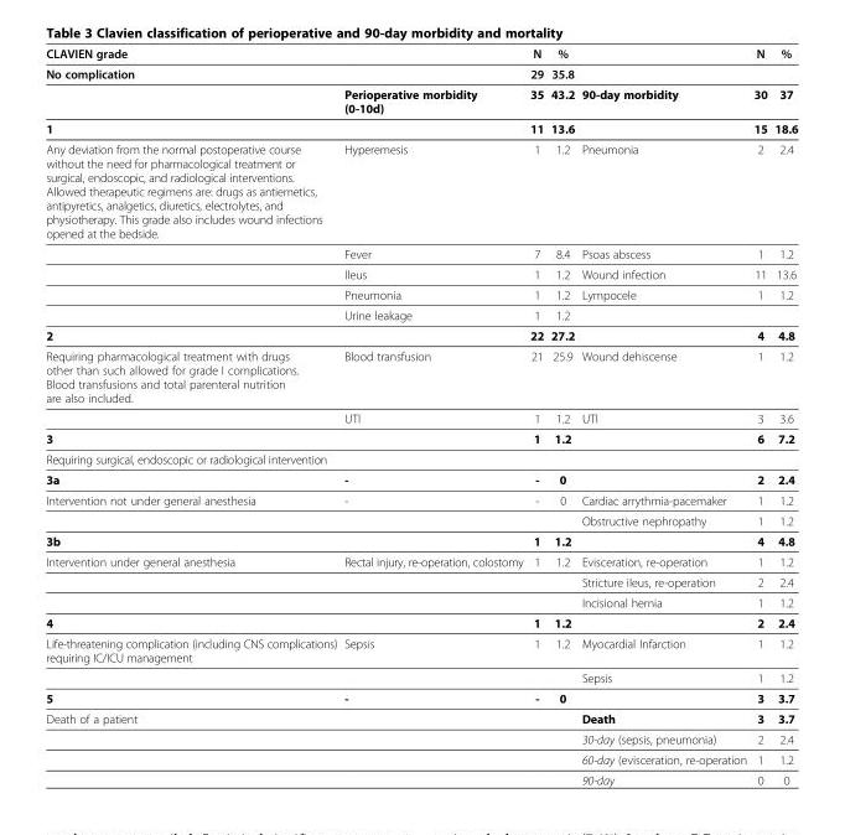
<table><thead><tr><td rowspan="2">CLAVIEN grade No complication</td><td rowspan="2"></td><td rowspan="2">N 29</td><td rowspan="2">% 35.8</td><td rowspan="2"></td><td rowspan="2">N</td><td rowspan="2">%</td></tr><tr></tr></thead><tbody><tr><td></td><td>Perioperative morbidity (0-10d)</td><td>35</td><td>43.2</td><td>90-day morbidity</td><td>30</td><td>37</td></tr><tr><td>1</td><td></td><td>11</td><td>13.6</td><td></td><td>15</td><td>18.6</td></tr><tr><td rowspan="5">Any deviation from the normal postoperative course without the need for pharmacological treatment or surgical, endoscopic, and radiological interventions. Allowed therapeutic regimens are: drugs as antiemetics, antipyretics, analgetics, diuretics, electrolytes, and physiotherapy. This grade also includes wound infections opened at the bedside.</td><td>Hyperemesis</td><td>1</td><td>1.2</td><td>Pneumonia</td><td>2</td><td>2.4</td></tr><tr><td>Fever</td><td>7</td><td>8.4</td><td>Psoas abscess</td><td>1</td><td>1.2</td></tr><tr><td>Ileus</td><td>1</td><td>1.2</td><td>Wound infection</td><td>11</td><td>13.6</td></tr><tr><td>Pneumonia</td><td>1</td><td>1.2</td><td>Lympocele</td><td>1</td><td>1.2</td></tr><tr><td>Urine leakage</td><td>1</td><td>1.2</td><td></td><td></td><td></td></tr><tr><td>2</td><td></td><td>22</td><td>27.2</td><td></td><td>4</td><td>4.8</td></tr><tr><td rowspan="2">Requiring pharmacological treatment with drugs other than such allowed for grade I complications. Blood transfusions and total parenteral nutrition are also included.</td><td>Blood transfusion</td><td>21</td><td>25.9</td><td>Wound dehiscense</td><td>1</td><td>1.2</td></tr><tr><td>UTI</td><td>1</td><td>1.2</td><td>UTI</td><td>3</td><td>3.6</td></tr><tr><td>3</td><td></td><td>1</td><td>1.2</td><td></td><td>6</td><td>7.2</td></tr><tr><td colspan="7">Requiring surgical, endoscopic or radiological intervention</td></tr><tr><td>3a</td><td>-</td><td>-</td><td>0</td><td></td><td>2</td><td>2.4</td></tr><tr><td rowspan="2">Intervention not under general anesthesia</td><td>-</td><td>-</td><td>0</td><td>Cardiac arrythmia-pacemaker</td><td>1</td><td>1.2</td></tr><tr><td></td><td></td><td></td><td>Obstructive nephropathy</td><td>1</td><td>1.2</td></tr><tr><td>3b</td><td></td><td>1</td><td>1.2</td><td></td><td>4</td><td>4.8</td></tr><tr><td rowspan="3">Intervention under general anesthesia</td><td>Rectal injury, re-operation, colostomy</td><td>1</td><td>1.2</td><td>Evisceration, re-operation</td><td>1</td><td>1.2</td></tr><tr><td></td><td></td><td></td><td>Stricture ileus, re-operation</td><td>2</td><td>2.4</td></tr><tr><td></td><td></td><td></td><td>Incisional hernia</td><td>1</td><td>1.2</td></tr><tr><td>4</td><td></td><td>1</td><td>1.2</td><td></td><td>2</td><td>2.4</td></tr><tr><td rowspan="2">Life-threatening complication (including CNS complications) requiring IC/ICU management</td><td>Sepsis</td><td>1</td><td>1.2</td><td>Myocardial Infarction</td><td>1</td><td>1.2</td></tr><tr><td></td><td></td><td></td><td>Sepsis</td><td>1</td><td>1.2</td></tr><tr><td>5</td><td>-</td><td>-</td><td>0</td><td></td><td>3</td><td>3.7</td></tr><tr><td rowspan="4">Death of a patient</td><td></td><td></td><td></td><td>Death</td><td>3</td><td>3.7</td></tr><tr><td></td><td></td><td></td><td>30-day (sepsis, pneumonia)</td><td>2</td><td>2.4</td></tr><tr><td></td><td></td><td></td><td>60-day (evisceration, re-operation</td><td>1</td><td>1.2</td></tr><tr><td></td><td></td><td></td><td>90-day</td><td>0</td><td>0</td></tr></tbody></table>